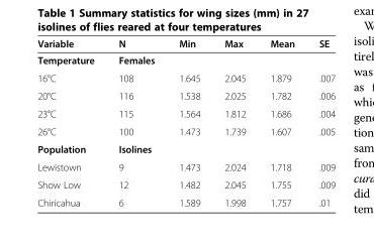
<table><thead><tr><td>Variable</td><td>N</td><td>Min</td><td>Max</td><td>Mean</td><td>SE</td></tr></thead><tbody><tr><td>Temperature</td><td>Females</td><td></td><td></td><td></td><td></td></tr><tr><td>16°C</td><td>108</td><td>1.645</td><td>2.045</td><td>1.879</td><td>.007</td></tr><tr><td>20°C</td><td>116</td><td>1.538</td><td>2.025</td><td>1.782</td><td>.006</td></tr><tr><td>23°C</td><td>115</td><td>1.564</td><td>1.812</td><td>1.686</td><td>.004</td></tr><tr><td>26°C</td><td>100</td><td>1.473</td><td>1.739</td><td>1.607</td><td>.005</td></tr><tr><td>Population</td><td>Isolines</td><td></td><td></td><td></td><td></td></tr><tr><td>Lewistown</td><td>9</td><td>1.473</td><td>2.024</td><td>1.718</td><td>.009</td></tr><tr><td>Show Low</td><td>12</td><td>1.482</td><td>2.045</td><td>1.755</td><td>.009</td></tr><tr><td>Chiricahua</td><td>6</td><td>1.589</td><td>1.998</td><td>1.757</td><td>.01</td></tr></tbody></table>